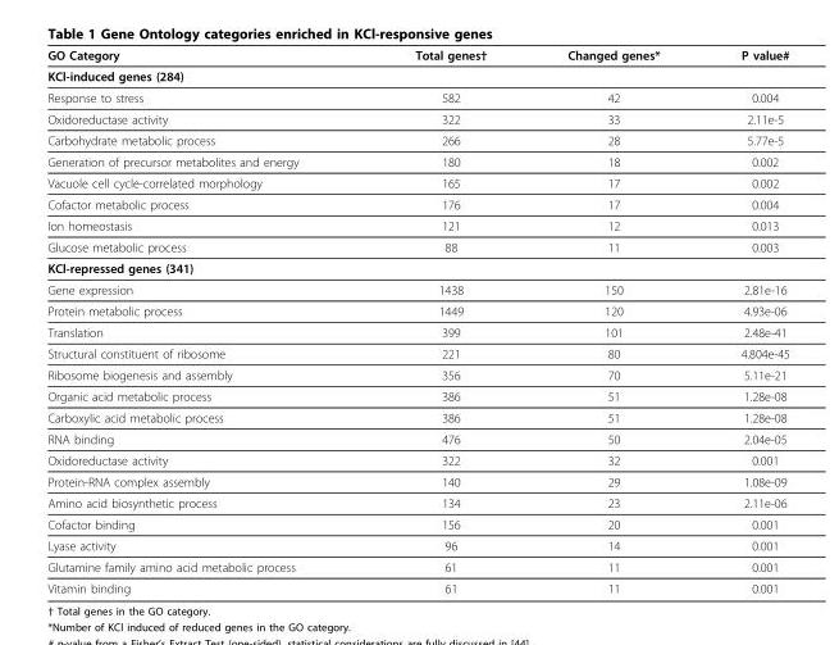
<table><thead><tr><td>GO Category</td><td>Total genes†</td><td>Changed genes*</td><td>P value#</td></tr></thead><tbody><tr><td colspan="4">KCl-induced genes (284)</td></tr><tr><td>Response to stress</td><td>582</td><td>42</td><td>0.004</td></tr><tr><td>Oxidoreductase activity</td><td>322</td><td>33</td><td>2.11e-5</td></tr><tr><td>Carbohydrate metabolic process</td><td>266</td><td>28</td><td>5.77e-5</td></tr><tr><td>Generation of precursor metabolites and energy</td><td>180</td><td>18</td><td>0.002</td></tr><tr><td>Vacuole cell cycle-correlated morphology</td><td>165</td><td>17</td><td>0.002</td></tr><tr><td>Cofactor metabolic process</td><td>176</td><td>17</td><td>0.004</td></tr><tr><td>Ion homeostasis</td><td>121</td><td>12</td><td>0.013</td></tr><tr><td>Glucose metabolic process</td><td>88</td><td>11</td><td>0.003</td></tr><tr><td colspan="4">KCl-repressed genes (341)</td></tr><tr><td>Gene expression</td><td>1438</td><td>150</td><td>2.81e-16</td></tr><tr><td>Protein metabolic process</td><td>1449</td><td>120</td><td>4.93e-06</td></tr><tr><td>Translation</td><td>399</td><td>101</td><td>2.48e-41</td></tr><tr><td>Structural constituent of ribosome</td><td>221</td><td>80</td><td>4.804e-45</td></tr><tr><td>Ribosome biogenesis and assembly</td><td>356</td><td>70</td><td>5.11e-21</td></tr><tr><td>Organic acid metabolic process</td><td>386</td><td>51</td><td>1.28e-08</td></tr><tr><td>Carboxylic acid metabolic process</td><td>386</td><td>51</td><td>1.28e-08</td></tr><tr><td>RNA binding</td><td>476</td><td>50</td><td>2.04e-05</td></tr><tr><td>Oxidoreductase activity</td><td>322</td><td>32</td><td>0.001</td></tr><tr><td>Protein-RNA complex assembly</td><td>140</td><td>29</td><td>1.08e-09</td></tr><tr><td>Amino acid biosynthetic process</td><td>134</td><td>23</td><td>2.11e-06</td></tr><tr><td>Cofactor binding</td><td>156</td><td>20</td><td>0.001</td></tr><tr><td>Lyase activity</td><td>96</td><td>14</td><td>0.001</td></tr><tr><td>Glutamine family amino acid metabolic process</td><td>61</td><td>11</td><td>0.001</td></tr><tr><td>Vitamin binding</td><td>61</td><td>11</td><td>0.001</td></tr></tbody></table>